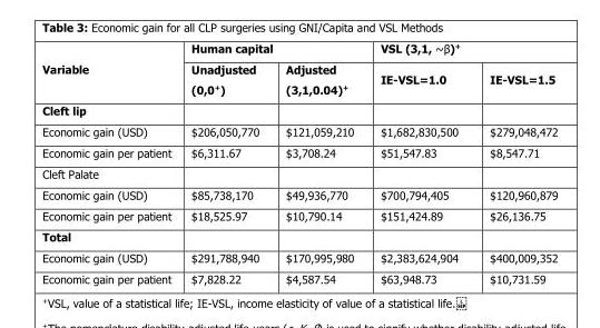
<table><thead><tr><td rowspan="2">Variable</td><td colspan="2">Human capital</td><td colspan="2">VSL (3,1, ~β)<sup>+</sup></td></tr><tr><td>Unadjusted (0,0<sup>+</sup>)</td><td>Adjusted (3,1,0.04)<sup>+</sup></td><td>IE-VSL=1.0</td><td>IE-VSL=1.5</td></tr></thead><tbody><tr><td colspan="5">Cleft lip</td></tr><tr><td>Economic gain (USD)</td><td>$206,050,770</td><td>$121,059,210</td><td>$1,682,830,500</td><td>$279,048,472</td></tr><tr><td>Economic gain per patient</td><td>$6,311.67</td><td>$3,708.24</td><td>$51,547.83</td><td>$8,547.71</td></tr><tr><td colspan="5">Cleft Palate</td></tr><tr><td>Economic gain (USD)</td><td>$85,738,170</td><td>$49,936,770</td><td>$700,794,405</td><td>$120,960,879</td></tr><tr><td>Economic gain per patient</td><td>$18,525.97</td><td>$10,790.14</td><td>$151,424.89</td><td>$26,136.75</td></tr><tr><td colspan="5">Total</td></tr><tr><td>Economic gain (USD)</td><td>$291,788,940</td><td>$170,995,980</td><td>$2,383,624,904</td><td>$400,009,352</td></tr><tr><td>Economic gain per patient</td><td>$7,828.22</td><td>$4,587.54</td><td>$63,948.73</td><td>$10,731.59</td></tr></tbody></table>